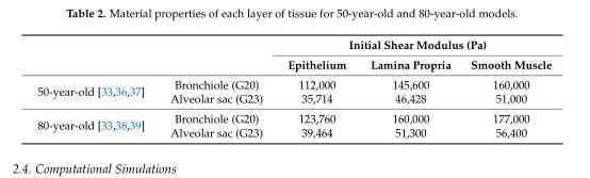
<table><thead><tr><td rowspan="2"></td><td rowspan="2"></td><td colspan="3">Initial Shear Modulus (Pa)</td></tr><tr><td>Epithelium</td><td>Lamina Propria</td><td>Smooth Muscle</td></tr></thead><tbody><tr><td rowspan="2">50-year-old [33,36,37]</td><td>Bronchiole (G20)</td><td>112,000</td><td>145,600</td><td>160,000</td></tr><tr><td>Alveolar sac (G23)</td><td>35,714</td><td>46,428</td><td>51,000</td></tr><tr><td rowspan="2">80-year-old [33,38,39]</td><td>Bronchiole (G20)</td><td>123,760</td><td>160,000</td><td>177,000</td></tr><tr><td>Alveolar sac (G23)</td><td>39,464</td><td>51,300</td><td>56,400</td></tr></tbody></table>